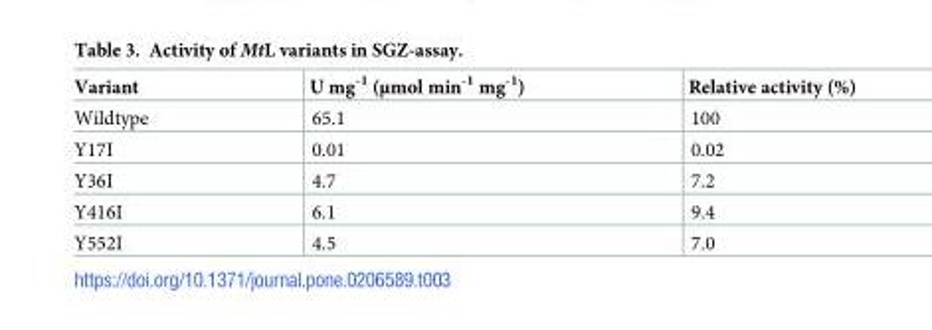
<table><thead><tr><td>Variant</td><td>U mg<sup>-1</sup> (μmol min<sup>-1</sup> mg<sup>-1</sup>)</td><td>Relative activity (%)</td></tr></thead><tbody><tr><td>Wildtype</td><td>65.1</td><td>100</td></tr><tr><td>Y17I</td><td>0.01</td><td>0.02</td></tr><tr><td>Y36I</td><td>4.7</td><td>7.2</td></tr><tr><td>Y416I</td><td>6.1</td><td>9.4</td></tr><tr><td>Y552I</td><td>4.5</td><td>7.0</td></tr></tbody></table>